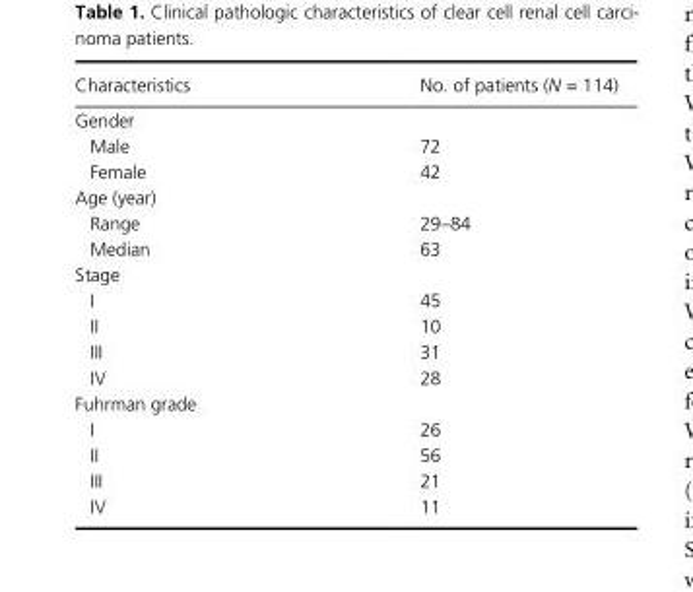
<table><thead><tr><td>Characteristics</td><td>No. of patients (N = 114)</td></tr></thead><tbody><tr><td colspan="2">Gender</td></tr><tr><td>Male</td><td>72</td></tr><tr><td>Female</td><td>42</td></tr><tr><td colspan="2">Age (year)</td></tr><tr><td>Range</td><td>29– 84</td></tr><tr><td>Median</td><td>63</td></tr><tr><td colspan="2">Stage</td></tr><tr><td>I</td><td>45</td></tr><tr><td>II</td><td>10</td></tr><tr><td>III</td><td>31</td></tr><tr><td>IV</td><td>28</td></tr><tr><td colspan="2">Fuhrman grade</td></tr><tr><td>I</td><td>26</td></tr><tr><td>II</td><td>56</td></tr><tr><td>III</td><td>21</td></tr><tr><td>IV</td><td>11</td></tr></tbody></table>